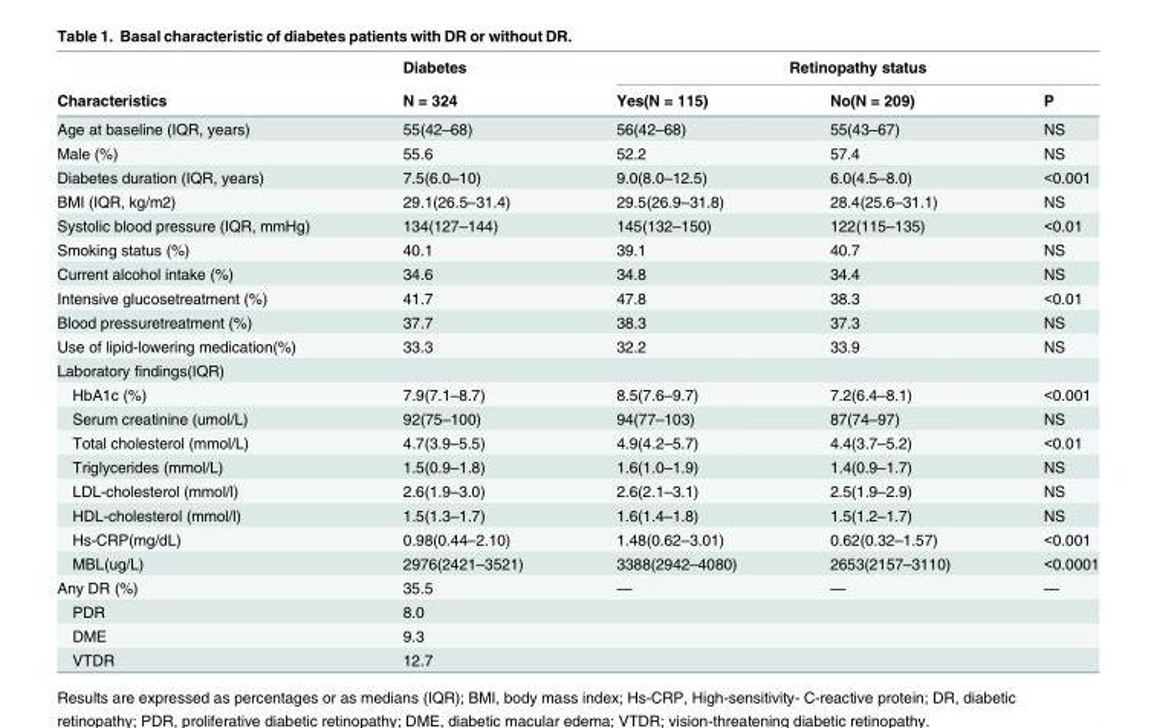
<table><thead><tr><td rowspan="2">Characteristics</td><td rowspan="2">Diabetes N = 324</td><td colspan="3">Retinopathy status</td></tr><tr><td>Yes(N = 115)</td><td>No(N = 209)</td><td>P</td></tr></thead><tbody><tr><td>Age at baseline (IQR, years)</td><td>55(42–68)</td><td>56(42–68)</td><td>55(43–67)</td><td>NS</td></tr><tr><td>Male (%)</td><td>55.6</td><td>52.2</td><td>57.4</td><td>NS</td></tr><tr><td>Diabetes duration (IQR, years)</td><td>7.5(6.0–10)</td><td>9.0(8.0–12.5)</td><td>6.0(4.5–8.0)</td><td>&lt;0.001</td></tr><tr><td>BMI (IQR, kg/m2)</td><td>29.1(26.5–31.4)</td><td>29.5(26.9–31.8)</td><td>28.4(25.6–31.1)</td><td>NS</td></tr><tr><td>Systolic blood pressure (IQR, mmHg)</td><td>134(127–144)</td><td>145(132–150)</td><td>122(115–135)</td><td>&lt;0.01</td></tr><tr><td>Smoking status (%)</td><td>40.1</td><td>39.1</td><td>40.7</td><td>NS</td></tr><tr><td>Current alcohol intake (%)</td><td>34.6</td><td>34.8</td><td>34.4</td><td>NS</td></tr><tr><td>Intensive glucosetreatment (%)</td><td>41.7</td><td>47.8</td><td>38.3</td><td>&lt;0.01</td></tr><tr><td>Blood pressuretreatment (%)</td><td>37.7</td><td>38.3</td><td>37.3</td><td>NS</td></tr><tr><td>Use of lipid-lowering medication(%)</td><td>33.3</td><td>32.2</td><td>33.9</td><td>NS</td></tr><tr><td colspan="5">Laboratory findings(IQR)</td></tr><tr><td>HbA1c (%)</td><td>7.9(7.1–8.7)</td><td>8.5(7.6–9.7)</td><td>7.2(6.4–8.1)</td><td>&lt;0.001</td></tr><tr><td>Serum creatinine (umol/L)</td><td>92(75–100)</td><td>94(77–103)</td><td>87(74–97)</td><td>NS</td></tr><tr><td>Total cholesterol (mmol/L)</td><td>4.7(3.9–5.5)</td><td>4.9(4.2–5.7)</td><td>4.4(3.7–5.2)</td><td>&lt;0.01</td></tr><tr><td>Triglycerides (mmol/L)</td><td>1.5(0.9–1.8)</td><td>1.6(1.0–1.9)</td><td>1.4(0.9–1.7)</td><td>NS</td></tr><tr><td>LDL-cholesterol (mmol/l)</td><td>2.6(1.9–3.0)</td><td>2.6(2.1–3.1)</td><td>2.5(1.9–2.9)</td><td>NS</td></tr><tr><td>HDL-cholesterol (mmol/l)</td><td>1.5(1.3–1.7)</td><td>1.6(1.4–1.8)</td><td>1.5(1.2–1.7)</td><td>NS</td></tr><tr><td>Hs-CRP(mg/dL)</td><td>0.98(0.44–2.10)</td><td>1.48(0.62–3.01)</td><td>0.62(0.32–1.57)</td><td>&lt;0.001</td></tr><tr><td>MBL(ug/L)</td><td>2976(2421–3521)</td><td>3388(2942–4080)</td><td>2653(2157–3110)</td><td>&lt;0.0001</td></tr><tr><td>Any DR (%)</td><td>35.5</td><td>—</td><td>—</td><td>—</td></tr><tr><td>PDR</td><td>8.0</td><td></td><td></td><td></td></tr><tr><td>DME</td><td>9.3</td><td></td><td></td><td></td></tr><tr><td>VTDR</td><td>12.7</td><td></td><td></td><td></td></tr></tbody></table>